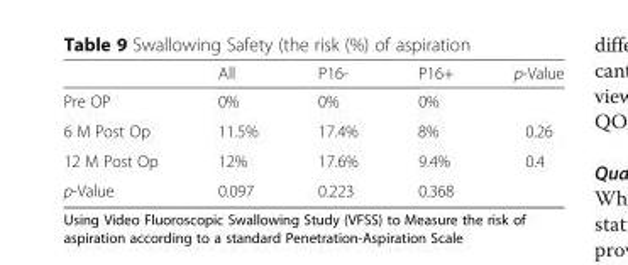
<table><thead><tr><td></td><td>All</td><td>P16-</td><td>P16+</td><td>p-Value</td></tr></thead><tbody><tr><td>Pre OP</td><td>0%</td><td>0%</td><td>0%</td><td></td></tr><tr><td>6 M Post Op</td><td>11.5%</td><td>17.4%</td><td>8%</td><td>0.26</td></tr><tr><td>12 M Post Op</td><td>12%</td><td>17.6%</td><td>9.4%</td><td>0.4</td></tr><tr><td>p-Value</td><td>0.097</td><td>0.223</td><td>0.368</td><td></td></tr></tbody></table>